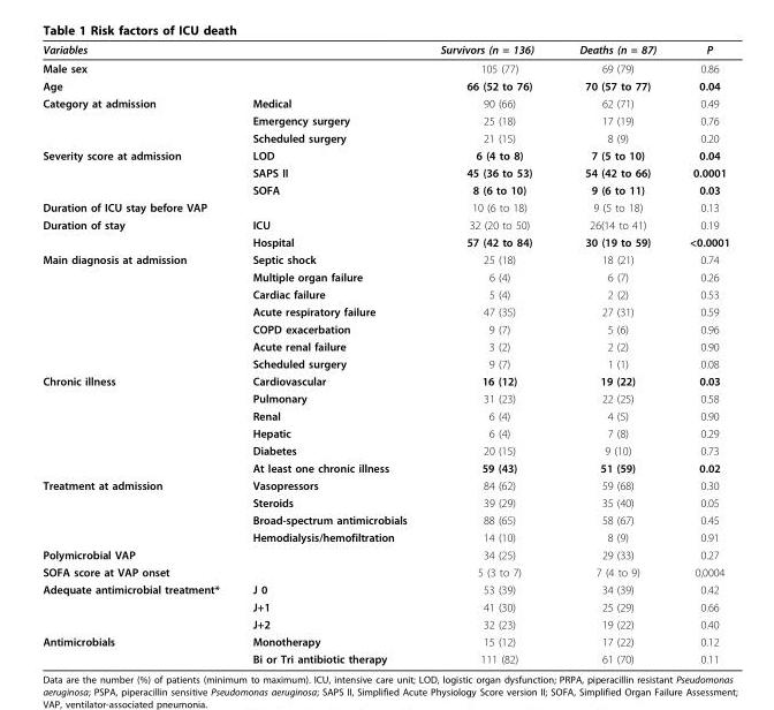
<table><thead><tr><td rowspan="3" colspan="2">Variables Male sex Age</td><td rowspan="4">Survivors (n = 136) 105 (77) 66 (52 to 76) 90 (66)</td><td rowspan="4">Deaths (n = 87) 69 (79) 70 (57 to 77) 62 (71)</td><td rowspan="4">P 0.86 0.04 0.49</td></tr><tr></tr><tr></tr><tr><td>Category at admission</td><td>Medical</td></tr></thead><tbody><tr><td></td><td>Emergency surgery</td><td>25 (18)</td><td>17 (19)</td><td>0.76</td></tr><tr><td></td><td>Scheduled surgery</td><td>21 (15)</td><td>8 (9)</td><td>0.20</td></tr><tr><td rowspan="3">Severity score at admission</td><td>LOD</td><td>6 (4 to 8)</td><td>7 (5 to 10)</td><td>0.04</td></tr><tr><td>SAPS II</td><td>45 (36 to 53)</td><td>54 (42 to 66)</td><td>0.0001</td></tr><tr><td>SOFA</td><td>8 (6 to 10)</td><td>9 (6 to 11)</td><td>0.03</td></tr><tr><td colspan="2">Duration of ICU stay before VAP</td><td>10 (6 to 18)</td><td>9 (5 to 18)</td><td>0.13</td></tr><tr><td rowspan="2">Duration of stay</td><td>ICU</td><td>32 (20 to 50)</td><td>26(14 to 41)</td><td>0.19</td></tr><tr><td>Hospital</td><td>57 (42 to 84)</td><td>30 (19 to 59)</td><td>&lt;0.0001</td></tr><tr><td rowspan="7">Main diagnosis at admission</td><td>Septic shock</td><td>25 (18)</td><td>18 (21)</td><td>0.74</td></tr><tr><td>Multiple organ failure</td><td>6 (4)</td><td>6 (7)</td><td>0.26</td></tr><tr><td>Cardiac failure</td><td>5 (4)</td><td>2 (2)</td><td>0.53</td></tr><tr><td>Acute respiratory failure</td><td>47 (35)</td><td>27 (31)</td><td>0.59</td></tr><tr><td>COPD exacerbation</td><td>9 (7)</td><td>5 (6)</td><td>0.96</td></tr><tr><td>Acute renal failure</td><td>3 (2)</td><td>2 (2)</td><td>0.90</td></tr><tr><td>Scheduled surgery</td><td>9 (7)</td><td>1 (1)</td><td>0.08</td></tr><tr><td rowspan="6">Chronic illness</td><td>Cardiovascular</td><td>16 (12)</td><td>19 (22)</td><td>0.03</td></tr><tr><td>Pulmonary</td><td>31 (23)</td><td>22 (25)</td><td>0.58</td></tr><tr><td>Renal</td><td>6 (4)</td><td>4 (5)</td><td>0.90</td></tr><tr><td>Hepatic</td><td>6 (4)</td><td>7 (8)</td><td>0.29</td></tr><tr><td>Diabetes</td><td>20 (15)</td><td>9 (10)</td><td>0.73</td></tr><tr><td>At least one chronic illness</td><td>59 (43)</td><td>51 (59)</td><td>0.02</td></tr><tr><td rowspan="4">Treatment at admission</td><td>Vasopressors</td><td>84 (62)</td><td>59 (68)</td><td>0.30</td></tr><tr><td>Steroids</td><td>39 (29)</td><td>35 (40)</td><td>0.05</td></tr><tr><td>Broad-spectrum antimicrobials</td><td>88 (65)</td><td>58 (67)</td><td>0.45</td></tr><tr><td>Hemodialysis/hemofiltration</td><td>14 (10)</td><td>8 (9)</td><td>0.91</td></tr><tr><td colspan="2">Polymicrobial VAP</td><td>34 (25)</td><td>29 (33)</td><td>0.27</td></tr><tr><td colspan="2">SOFA score at VAP onset</td><td>5 (3 to 7)</td><td>7 (4 to 9)</td><td>0,0004</td></tr><tr><td rowspan="3">Adequate antimicrobial treatment*</td><td>J 0</td><td>53 (39)</td><td>34 (39)</td><td>0.42</td></tr><tr><td>J+1</td><td>41 (30)</td><td>25 (29)</td><td>0.66</td></tr><tr><td>J+2</td><td>32 (23)</td><td>19 (22)</td><td>0.40</td></tr><tr><td rowspan="2">Antimicrobials</td><td>Monotherapy</td><td>15 (12)</td><td>17 (22)</td><td>0.12</td></tr><tr><td>Bi or Tri antibiotic therapy</td><td>111 (82)</td><td>61 (70)</td><td>0.11</td></tr></tbody></table>